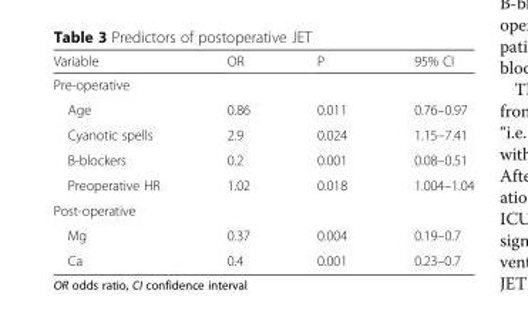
<table><thead><tr><td>Variable</td><td>OR</td><td>P</td><td>95% CI</td></tr></thead><tbody><tr><td colspan="4">Pre-operative</td></tr><tr><td>Age</td><td>0.86</td><td>0.011</td><td>0.76–0.97</td></tr><tr><td>Cyanotic spells</td><td>2.9</td><td>0.024</td><td>1.15–7.41</td></tr><tr><td>B-blockers</td><td>0.2</td><td>0.001</td><td>0.08–0.51</td></tr><tr><td>Preoperative HR</td><td>1.02</td><td>0.018</td><td>1.004–1.04</td></tr><tr><td colspan="4">Post-operative</td></tr><tr><td>Mg</td><td>0.37</td><td>0.004</td><td>0.19–0.7</td></tr><tr><td>Ca</td><td>0.4</td><td>0.001</td><td>0.23–0.7</td></tr></tbody></table>